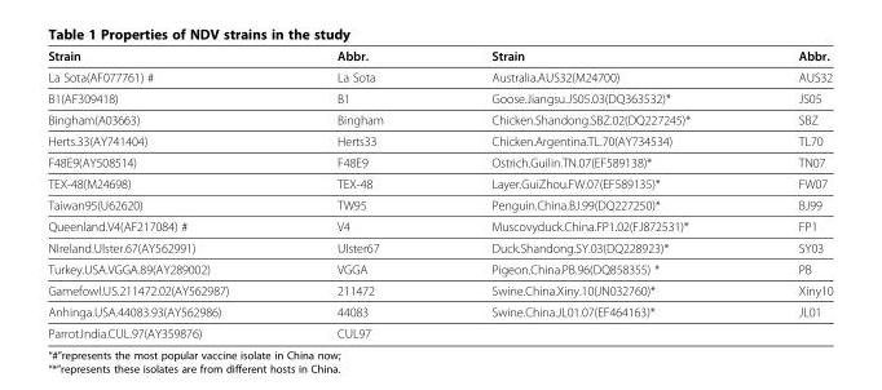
<table><thead><tr><td>Strain</td><td>Abbr.</td><td>Strain</td><td>Abbr.</td></tr></thead><tbody><tr><td>La Sota(AF077761) #</td><td>La Sota</td><td>Australia.AUS32(M24700)</td><td>AUS32</td></tr><tr><td>B1(AF309418)</td><td>B1</td><td>Goose.Jiangsu.JS05.03(DQ363532)*</td><td>JS05</td></tr><tr><td>Bingham(A03663)</td><td>Bingham</td><td>Chicken.Shandong.SBZ.02(DQ227245)*</td><td>SBZ</td></tr><tr><td>Herts.33(AY741404)</td><td>Herts33</td><td>Chicken.Argentina.TL.70(AY734534)</td><td>TL70</td></tr><tr><td>F48E9(AY508514)</td><td>F48E9</td><td>Ostrich.Guilin.TN.07(EF589138)*</td><td>TN07</td></tr><tr><td>TEX-48(M24698)</td><td>TEX-48</td><td>Layer.GuiZhou.FW.07(EF589135)*</td><td>FW07</td></tr><tr><td>Taiwan95(U62620)</td><td>TW95</td><td>Penguin.China.BJ.99(DQ227250)*</td><td>BJ99</td></tr><tr><td>Queenland.V4(AF217084) #</td><td>V4</td><td>Muscovyduck.China.FP1.02(FJ872531)*</td><td>FP1</td></tr><tr><td>NIreland.Ulster.67(AY562991)</td><td>Ulster67</td><td>Duck.Shandong.SY.03(DQ228923)*</td><td>SY03</td></tr><tr><td>Turkey.USA.VGGA.89(AY289002)</td><td>VGGA</td><td>Pigeon.China.PB.96(DQ858355) *</td><td>PB</td></tr><tr><td>Gamefowl.US.211472.02(AY562987)</td><td>211472</td><td>Swine.China.Xiny.10(JN032760)*</td><td>Xiny10</td></tr><tr><td>Anhinga.USA.44083.93(AY562986)</td><td>44083</td><td>Swine.China.JL01.07(EF464163)*</td><td>JL01</td></tr><tr><td>Parrot.India.CUL.97(AY359876)</td><td colspan="3">CUL97</td></tr></tbody></table>